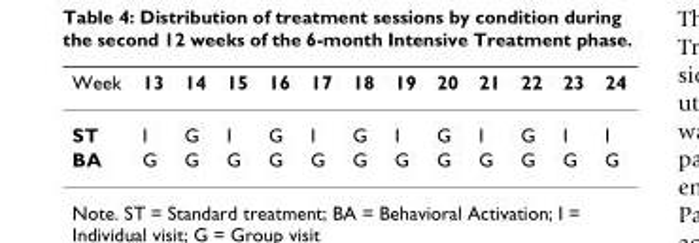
<table><thead><tr><td>Week</td><td>13</td><td>14</td><td>15</td><td>16</td><td>17</td><td>18</td><td>19</td><td>20</td><td>21</td><td>22</td><td>23</td><td>24</td></tr></thead><tbody><tr><td>ST</td><td>I</td><td>G</td><td>I</td><td>G</td><td>I</td><td>G</td><td>I</td><td>G</td><td>I</td><td>G</td><td>I</td><td>I</td></tr><tr><td>BA</td><td>G</td><td>G</td><td>G</td><td>G</td><td>G</td><td>G</td><td>G</td><td>G</td><td>G</td><td>G</td><td>G</td><td>G</td></tr></tbody></table>